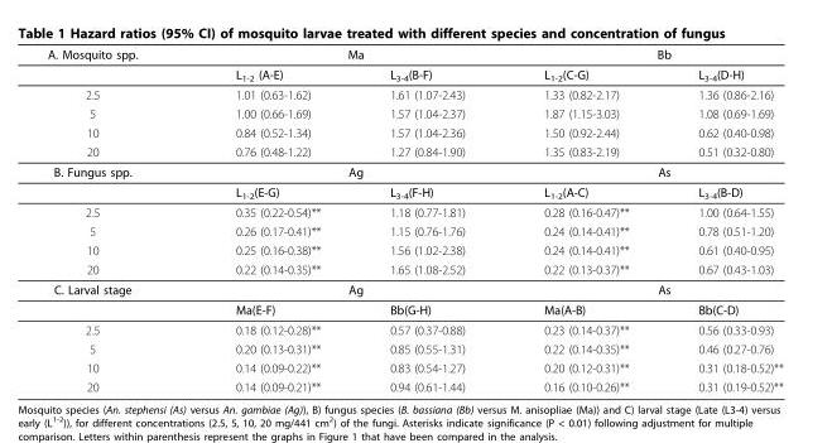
<table><thead><tr><td rowspan="2">A. Mosquito spp.</td><td colspan="2">Ma</td><td colspan="2">Bb</td></tr><tr><td>L<sub>1-2</sub> (A-E)</td><td>L<sub>3-4</sub>(B-F)</td><td>L<sub>1-2</sub>(C-G)</td><td>L<sub>3-4</sub>(D-H)</td></tr></thead><tbody><tr><td>2.5</td><td>1.01 (0.63-1.62)</td><td>1.61 (1.07-2.43)</td><td>1.33 (0.82-2.17)</td><td>1.36 (0.86-2.16)</td></tr><tr><td>5</td><td>1.00 (0.66-1.69)</td><td>1.57 (1.04-2.37)</td><td>1.87 (1.15-3.03)</td><td>1.08 (0.69-1.69)</td></tr><tr><td>10</td><td>0.84 (0.52-1.34)</td><td>1.57 (1.04-2.36)</td><td>1.50 (0.92-2.44)</td><td>0.62 (0.40-0.98)</td></tr><tr><td>20</td><td>0.76 (0.48-1.22)</td><td>1.27 (0.84-1.90)</td><td>1.35 (0.83-2.19)</td><td>0.51 (0.32-0.80)</td></tr><tr><td rowspan="2">B. Fungus spp.</td><td colspan="2">Ag</td><td colspan="2">As</td></tr><tr><td>L<sub>1-2</sub>(E-G)</td><td>L<sub>3-4</sub>(F-H)</td><td>L<sub>1-2</sub>(A-C)</td><td>L<sub>3-4</sub>(B-D)</td></tr><tr><td>2.5</td><td>0.35 (0.22-0.54)**</td><td>1.18 (0.77-1.81)</td><td>0.28 (0.16-0.47)**</td><td>1.00 (0.64-1.55)</td></tr><tr><td>5</td><td>0.26 (0.17-0.41)**</td><td>1.15 (0.76-1.76)</td><td>0.24 (0.14-0.41)**</td><td>0.78 (0.51-1.20)</td></tr><tr><td>10</td><td>0.25 (0.16-0.38)**</td><td>1.56 (1.02-2.38)</td><td>0.24 (0.14-0.41)**</td><td>0.61 (0.40-0.95)</td></tr><tr><td>20</td><td>0.22 (0.14-0.35)**</td><td>1.65 (1.08-2.52)</td><td>0.22 (0.13-0.37)**</td><td>0.67 (0.43-1.03)</td></tr><tr><td rowspan="2">C. Larval stage</td><td colspan="2">Ag</td><td colspan="2">As</td></tr><tr><td>Ma(E-F)</td><td>Bb(G-H)</td><td>Ma(A-B)</td><td>Bb(C-D)</td></tr><tr><td>2.5</td><td>0.18 (0.12-0.28)**</td><td>0.57 (0.37-0.88)</td><td>0.23 (0.14-0.37)**</td><td>0.56 (0.33-0.93)</td></tr><tr><td>5</td><td>0.20 (0.13-0.31)**</td><td>0.85 (0.55-1.31)</td><td>0.22 (0.14-0.35)**</td><td>0.46 (0.27-0.76)</td></tr><tr><td>10</td><td>0.14 (0.09-0.22)**</td><td>0.83 (0.54-1.27)</td><td>0.20 (0.12-0.31)**</td><td>0.31 (0.18-0.52)**</td></tr><tr><td>20</td><td>0.14 (0.09-0.21)**</td><td>0.94 (0.61-1.44)</td><td>0.16 (0.10-0.26)**</td><td>0.31 (0.19-0.52)**</td></tr></tbody></table>